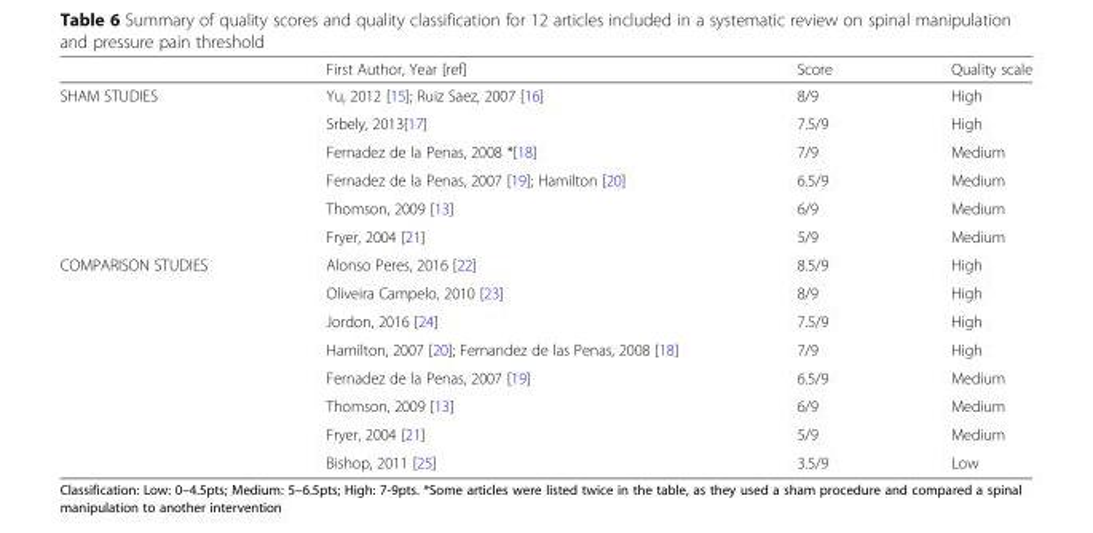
<table><thead><tr><td></td><td>First Author, Year [ref]</td><td>Score</td><td>Quality scale</td></tr></thead><tbody><tr><td rowspan="6">SHAM STUDIES</td><td>Yu, 2012 [15]; Ruiz Saez, 2007 [16]</td><td>8/9</td><td>High</td></tr><tr><td>Srbely, 2013[17]</td><td>7.5/9</td><td>High</td></tr><tr><td>Fernadez de la Penas, 2008 *[18]</td><td>7/9</td><td>Medium</td></tr><tr><td>Fernadez de la Penas, 2007 [19]; Hamilton [20]</td><td>6.5/9</td><td>Medium</td></tr><tr><td>Thomson, 2009 [13]</td><td>6/9</td><td>Medium</td></tr><tr><td>Fryer, 2004 [21]</td><td>5/9</td><td>Medium</td></tr><tr><td rowspan="8">COMPARISON STUDIES</td><td>Alonso Peres, 2016 [22]</td><td>8.5/9</td><td>High</td></tr><tr><td>Oliveira Campelo, 2010 [23]</td><td>8/9</td><td>High</td></tr><tr><td>Jordon, 2016 [24]</td><td>7.5/9</td><td>High</td></tr><tr><td>Hamilton, 2007 [20]; Fernandez de las Penas, 2008 [18]</td><td>7/9</td><td>High</td></tr><tr><td>Fernadez de la Penas, 2007 [19]</td><td>6.5/9</td><td>Medium</td></tr><tr><td>Thomson, 2009 [13]</td><td>6/9</td><td>Medium</td></tr><tr><td>Fryer, 2004 [21]</td><td>5/9</td><td>Medium</td></tr><tr><td>Bishop, 2011 [25]</td><td>3.5/9</td><td>Low</td></tr></tbody></table>